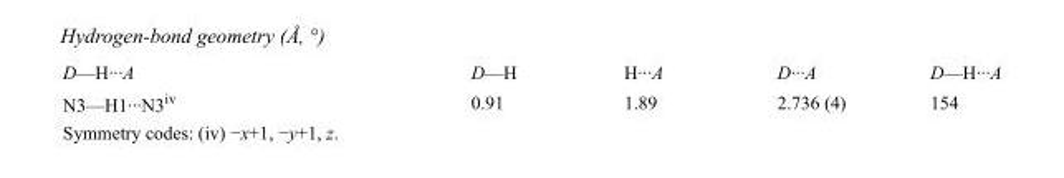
<table><tbody><tr><td>D—H···A</td><td>D—H</td><td>H···A</td><td>D···A</td><td>D—H···A</td></tr><tr><td>N3—H1···N3<sup>iv</sup></td><td>0.91</td><td>1.89</td><td>2.736 (4)</td><td>154</td></tr></tbody></table>